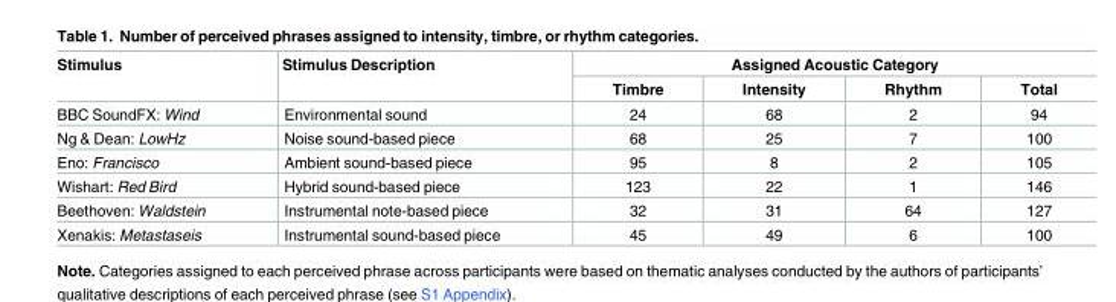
<table><thead><tr><td rowspan="2">Stimulus</td><td rowspan="2">Stimulus Description</td><td colspan="4">Assigned Acoustic Category</td></tr><tr><td>Timbre</td><td>Intensity</td><td>Rhythm</td><td>Total</td></tr></thead><tbody><tr><td>BBC SoundFX: Wind</td><td>Environmental sound</td><td>24</td><td>68</td><td>2</td><td>94</td></tr><tr><td>Ng &amp; Dean: LowHz</td><td>Noise sound-based piece</td><td>68</td><td>25</td><td>7</td><td>100</td></tr><tr><td>Eno: Francisco</td><td>Ambient sound-based piece</td><td>95</td><td>8</td><td>2</td><td>105</td></tr><tr><td>Wishart: Red Bird</td><td>Hybrid sound-based piece</td><td>123</td><td>22</td><td>1</td><td>146</td></tr><tr><td>Beethoven: Waldstein</td><td>Instrumental note-based piece</td><td>32</td><td>31</td><td>64</td><td>127</td></tr><tr><td>Xenakis: Metastaseis</td><td>Instrumental sound-based piece</td><td>45</td><td>49</td><td>6</td><td>100</td></tr></tbody></table>